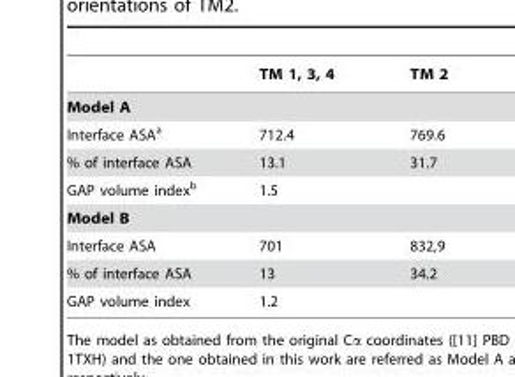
<table><thead><tr><td></td><td>TM 1, 3, 4</td><td>TM 2</td></tr></thead><tbody><tr><td colspan="3">Model A</td></tr><tr><td>Interface ASA<sup>a</sup></td><td>712.4</td><td>769.6</td></tr><tr><td>% of interface ASA</td><td>13.1</td><td>31.7</td></tr><tr><td>GAP volume index<sup>b</sup></td><td colspan="2">1.5</td></tr><tr><td colspan="3">Model B</td></tr><tr><td>Interface ASA</td><td>701</td><td>832,9</td></tr><tr><td>% of interface ASA</td><td>13</td><td>34.2</td></tr><tr><td>GAP volume index</td><td colspan="2">1.2</td></tr></tbody></table>